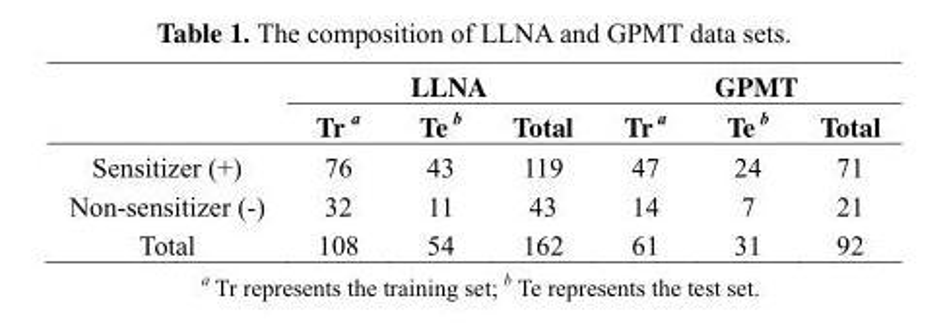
<table><thead><tr><td rowspan="2"></td><td colspan="3">LLNA</td><td colspan="3">GPMT</td></tr><tr><td>Tr a</td><td>Te b</td><td>Total</td><td>Tr a</td><td>Te b</td><td>Total</td></tr></thead><tbody><tr><td>Sensitizer (+)</td><td>76</td><td>43</td><td>119</td><td>47</td><td>24</td><td>71</td></tr><tr><td>Non-sensitizer (-)</td><td>32</td><td>11</td><td>43</td><td>14</td><td>7</td><td>21</td></tr><tr><td>Total</td><td>108</td><td>54</td><td>162</td><td>61</td><td>31</td><td>92</td></tr></tbody></table>